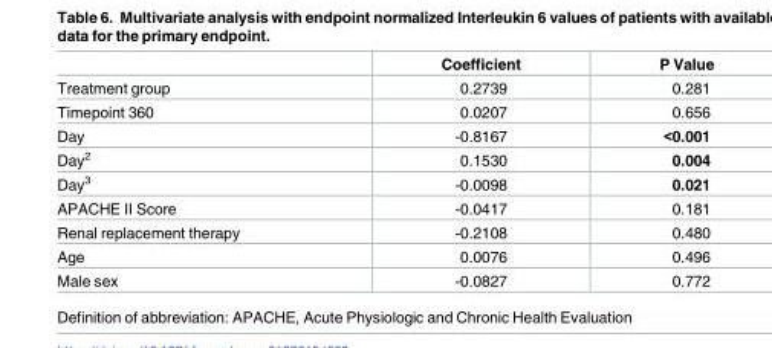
<table><thead><tr><td></td><td>Coefficient</td><td>P Value</td></tr></thead><tbody><tr><td>Treatment group</td><td>0.2739</td><td>0.281</td></tr><tr><td>Timepoint 360</td><td>0.0207</td><td>0.656</td></tr><tr><td>Day</td><td>-0.8167</td><td>&lt;0.001</td></tr><tr><td>Day<sup>2</sup></td><td>0.1530</td><td>0.004</td></tr><tr><td>Day<sup>3</sup></td><td>-0.0098</td><td>0.021</td></tr><tr><td>APACHE II Score</td><td>-0.0417</td><td>0.181</td></tr><tr><td>Renal replacement therapy</td><td>-0.2108</td><td>0.480</td></tr><tr><td>Age</td><td>0.0076</td><td>0.496</td></tr><tr><td>Male sex</td><td>-0.0827</td><td>0.772</td></tr></tbody></table>